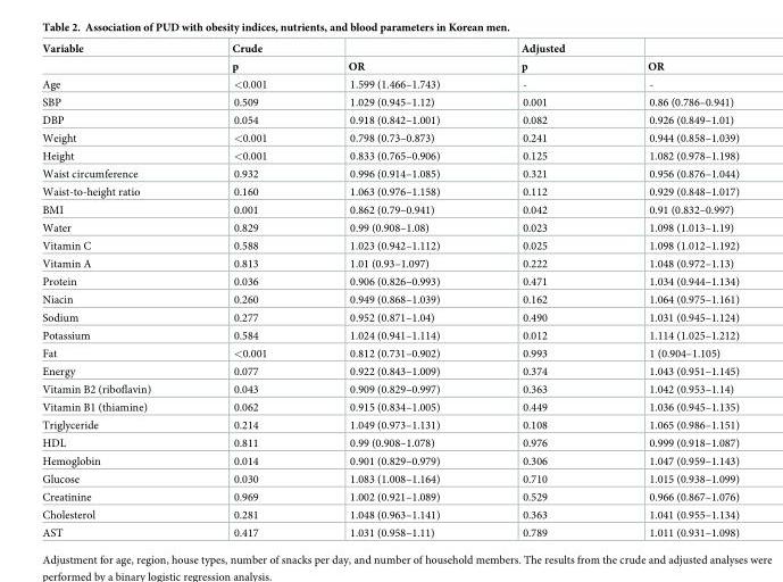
<table><thead><tr><td rowspan="2">Variable</td><td rowspan="2">Crude p</td><td rowspan="2">OR</td><td rowspan="2">Adjusted p</td><td rowspan="2">OR</td></tr><tr></tr></thead><tbody><tr><td>Age</td><td>&lt;0.001</td><td>1.599 (1.466–1.743)</td><td>-</td><td>-</td></tr><tr><td>SBP</td><td>0.509</td><td>1.029 (0.945–1.12)</td><td>0.001</td><td>0.86 (0.786–0.941)</td></tr><tr><td>DBP</td><td>0.054</td><td>0.918 (0.842–1.001)</td><td>0.082</td><td>0.926 (0.849–1.01)</td></tr><tr><td>Weight</td><td>&lt;0.001</td><td>0.798 (0.73–0.873)</td><td>0.241</td><td>0.944 (0.858–1.039)</td></tr><tr><td>Height</td><td>&lt;0.001</td><td>0.833 (0.765–0.906)</td><td>0.125</td><td>1.082 (0.978–1.198)</td></tr><tr><td>Waist circumference</td><td>0.932</td><td>0.996 (0.914–1.085)</td><td>0.321</td><td>0.956 (0.876–1.044)</td></tr><tr><td>Waist-to-height ratio</td><td>0.160</td><td>1.063 (0.976–1.158)</td><td>0.112</td><td>0.929 (0.848–1.017)</td></tr><tr><td>BMI</td><td>0.001</td><td>0.862 (0.79–0.941)</td><td>0.042</td><td>0.91 (0.832–0.997)</td></tr><tr><td>Water</td><td>0.829</td><td>0.99 (0.908–1.08)</td><td>0.023</td><td>1.098 (1.013–1.19)</td></tr><tr><td>Vitamin C</td><td>0.588</td><td>1.023 (0.942–1.112)</td><td>0.025</td><td>1.098 (1.012–1.192)</td></tr><tr><td>Vitamin A</td><td>0.813</td><td>1.01 (0.93–1.097)</td><td>0.222</td><td>1.048 (0.972–1.13)</td></tr><tr><td>Protein</td><td>0.036</td><td>0.906 (0.826–0.993)</td><td>0.471</td><td>1.034 (0.944–1.134)</td></tr><tr><td>Niacin</td><td>0.260</td><td>0.949 (0.868–1.039)</td><td>0.162</td><td>1.064 (0.975–1.161)</td></tr><tr><td>Sodium</td><td>0.277</td><td>0.952 (0.871–1.04)</td><td>0.490</td><td>1.031 (0.945–1.124)</td></tr><tr><td>Potassium</td><td>0.584</td><td>1.024 (0.941–1.114)</td><td>0.012</td><td>1.114 (1.025–1.212)</td></tr><tr><td>Fat</td><td>&lt;0.001</td><td>0.812 (0.731–0.902)</td><td>0.993</td><td>1 (0.904–1.105)</td></tr><tr><td>Energy</td><td>0.077</td><td>0.922 (0.843–1.009)</td><td>0.374</td><td>1.043 (0.951–1.145)</td></tr><tr><td>Vitamin B2 (riboflavin)</td><td>0.043</td><td>0.909 (0.829–0.997)</td><td>0.363</td><td>1.042 (0.953–1.14)</td></tr><tr><td>Vitamin B1 (thiamine)</td><td>0.062</td><td>0.915 (0.834–1.005)</td><td>0.449</td><td>1.036 (0.945–1.135)</td></tr><tr><td>Triglyceride</td><td>0.214</td><td>1.049 (0.973–1.131)</td><td>0.108</td><td>1.065 (0.986–1.151)</td></tr><tr><td>HDL</td><td>0.811</td><td>0.99 (0.908–1.078)</td><td>0.976</td><td>0.999 (0.918–1.087)</td></tr><tr><td>Hemoglobin</td><td>0.014</td><td>0.901 (0.829–0.979)</td><td>0.306</td><td>1.047 (0.959–1.143)</td></tr><tr><td>Glucose</td><td>0.030</td><td>1.083 (1.008–1.164)</td><td>0.710</td><td>1.015 (0.938–1.099)</td></tr><tr><td>Creatinine</td><td>0.969</td><td>1.002 (0.921–1.089)</td><td>0.529</td><td>0.966 (0.867–1.076)</td></tr><tr><td>Cholesterol</td><td>0.281</td><td>1.048 (0.963–1.141)</td><td>0.363</td><td>1.041 (0.955–1.134)</td></tr><tr><td>AST</td><td>0.417</td><td>1.031 (0.958–1.11)</td><td>0.789</td><td>1.011 (0.931–1.098)</td></tr></tbody></table>